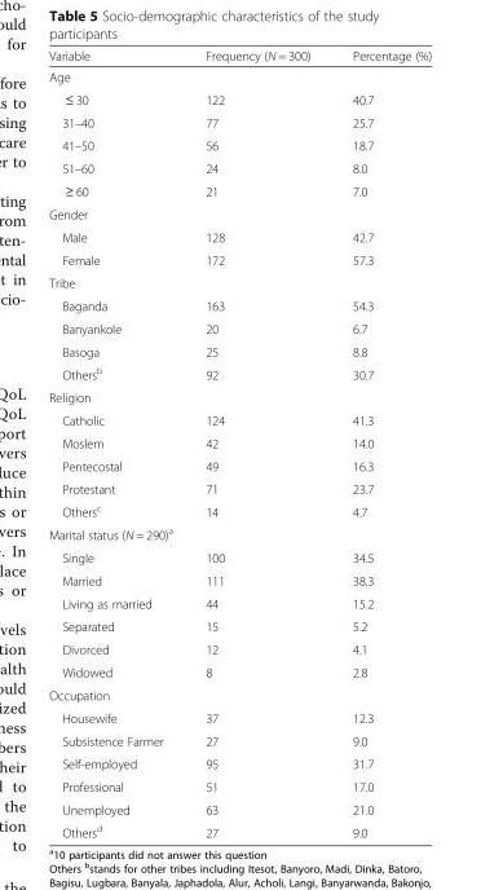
<table><thead><tr><td>Variable</td><td>Frequency (N = 300)</td><td>Percentage (%)</td></tr></thead><tbody><tr><td colspan="3">Age</td></tr><tr><td>≤ 30</td><td>122</td><td>40.7</td></tr><tr><td>31–40</td><td>77</td><td>25.7</td></tr><tr><td>41–50</td><td>56</td><td>18.7</td></tr><tr><td>51–60</td><td>24</td><td>8.0</td></tr><tr><td>≥ 60</td><td>21</td><td>7.0</td></tr><tr><td colspan="3">Gender</td></tr><tr><td>Male</td><td>128</td><td>42.7</td></tr><tr><td>Female</td><td>172</td><td>57.3</td></tr><tr><td colspan="3">Tribe</td></tr><tr><td>Baganda</td><td>163</td><td>54.3</td></tr><tr><td>Banyankole</td><td>20</td><td>6.7</td></tr><tr><td>Basoga</td><td>25</td><td>8.8</td></tr><tr><td>Others<sup>b</sup></td><td>92</td><td>30.7</td></tr><tr><td colspan="3">Religion</td></tr><tr><td>Catholic</td><td>124</td><td>41.3</td></tr><tr><td>Moslem</td><td>42</td><td>14.0</td></tr><tr><td>Pentecostal</td><td>49</td><td>16.3</td></tr><tr><td>Protestant</td><td>71</td><td>23.7</td></tr><tr><td>Others<sup>c</sup></td><td>14</td><td>4.7</td></tr><tr><td colspan="3">Marital status (N = 290)<sup>a</sup></td></tr><tr><td>Single</td><td>100</td><td>34.5</td></tr><tr><td>Married</td><td>111</td><td>38.3</td></tr><tr><td>Living as married</td><td>44</td><td>15.2</td></tr><tr><td>Separated</td><td>15</td><td>5.2</td></tr><tr><td>Divorced</td><td>12</td><td>4.1</td></tr><tr><td>Widowed</td><td>8</td><td>2.8</td></tr><tr><td colspan="3">Occupation</td></tr><tr><td>Housewife</td><td>37</td><td>12.3</td></tr><tr><td>Subsistence Farmer</td><td>27</td><td>9.0</td></tr><tr><td>Self-employed</td><td>95</td><td>31.7</td></tr><tr><td>Professional</td><td>51</td><td>17.0</td></tr><tr><td>Unemployed</td><td>63</td><td>21.0</td></tr><tr><td>Others<sup>d</sup></td><td>27</td><td>9.0</td></tr></tbody></table>